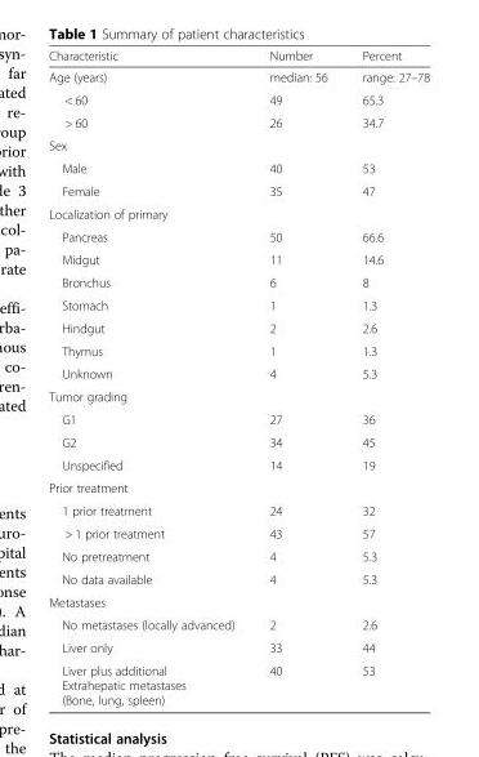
<table><thead><tr><td>Characteristic</td><td>Number</td><td>Percent</td></tr></thead><tbody><tr><td>Age (years)</td><td>median: 56</td><td>range: 27–78</td></tr><tr><td>&lt; 60</td><td>49</td><td>65.3</td></tr><tr><td>&gt; 60</td><td>26</td><td>34.7</td></tr><tr><td colspan="3">Sex</td></tr><tr><td>Male</td><td>40</td><td>53</td></tr><tr><td>Female</td><td>35</td><td>47</td></tr><tr><td colspan="3">Localization of primary</td></tr><tr><td>Pancreas</td><td>50</td><td>66.6</td></tr><tr><td>Midgut</td><td>11</td><td>14.6</td></tr><tr><td>Bronchus</td><td>6</td><td>8</td></tr><tr><td>Stomach</td><td>1</td><td>1.3</td></tr><tr><td>Hindgut</td><td>2</td><td>2.6</td></tr><tr><td>Thymus</td><td>1</td><td>1.3</td></tr><tr><td>Unknown</td><td>4</td><td>5.3</td></tr><tr><td colspan="3">Tumor grading</td></tr><tr><td>G1</td><td>27</td><td>36</td></tr><tr><td>G2</td><td>34</td><td>45</td></tr><tr><td>Unspecified</td><td>14</td><td>19</td></tr><tr><td colspan="3">Prior treatment</td></tr><tr><td>1 prior treatment</td><td>24</td><td>32</td></tr><tr><td>&gt; 1 prior treatment</td><td>43</td><td>57</td></tr><tr><td>No pretreatment</td><td>4</td><td>5.3</td></tr><tr><td>No data available</td><td>4</td><td>5.3</td></tr><tr><td colspan="3">Metastases</td></tr><tr><td>No metastases (locally advanced)</td><td>2</td><td>2.6</td></tr><tr><td>Liver only</td><td>33</td><td>44</td></tr><tr><td>Liver plus additional Extrahepatic metastases (Bone, lung, spleen)</td><td>40</td><td>53</td></tr></tbody></table>